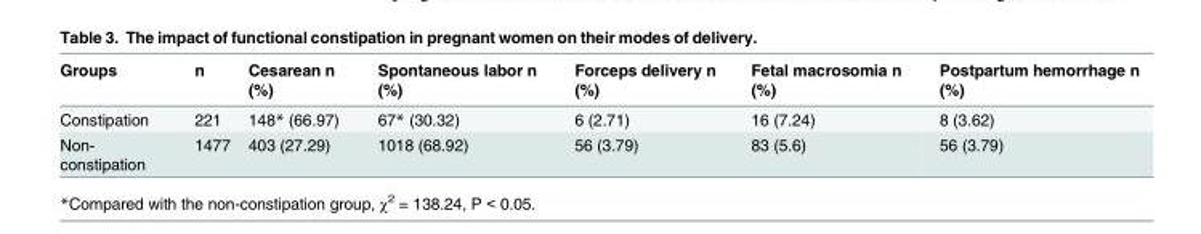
<table><thead><tr><td>Groups</td><td>n</td><td>Cesarean n (%)</td><td>Spontaneous labor n (%)</td><td>Forceps delivery n (%)</td><td>Fetal macrosomia n (%)</td><td>Postpartum hemorrhage n (%)</td></tr></thead><tbody><tr><td>Constipation</td><td>221</td><td>148* (66.97)</td><td>67* (30.32)</td><td>6 (2.71)</td><td>16 (7.24)</td><td>8 (3.62)</td></tr><tr><td>Non- constipation</td><td>1477</td><td>403 (27.29)</td><td>1018 (68.92)</td><td>56 (3.79)</td><td>83 (5.6)</td><td>56 (3.79)</td></tr></tbody></table>